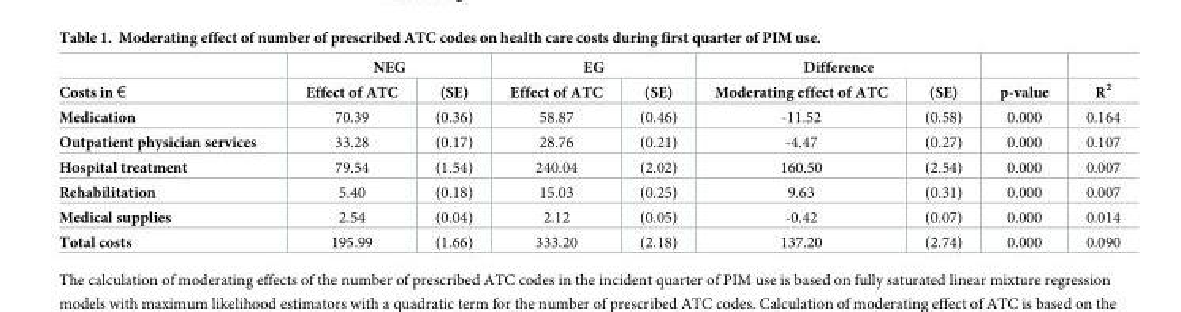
<table><thead><tr><td rowspan="2">Costs in €</td><td colspan="2">NEG</td><td colspan="2">EG</td><td colspan="2">Difference</td><td rowspan="2">p-value</td><td rowspan="2">R<sup>2</sup></td></tr><tr><td>Effect of ATC</td><td>(SE)</td><td>Effect of ATC</td><td>(SE)</td><td>Moderating effect of ATC</td><td>(SE)</td></tr></thead><tbody><tr><td>Medication</td><td>70.39</td><td>(0.36)</td><td>58.87</td><td>(0.46)</td><td>-11.52</td><td>(0.58)</td><td>0.000</td><td>0.164</td></tr><tr><td>Outpatient physician services</td><td>33.28</td><td>(0.17)</td><td>28.76</td><td>(0.21)</td><td>-4.47</td><td>(0.27)</td><td>0.000</td><td>0.107</td></tr><tr><td>Hospital treatment</td><td>79.54</td><td>(1.54)</td><td>240.04</td><td>(2.02)</td><td>160.50</td><td>(2.54)</td><td>0.000</td><td>0.007</td></tr><tr><td>Rehabilitation</td><td>5.40</td><td>(0.18)</td><td>15.03</td><td>(0.25)</td><td>9.63</td><td>(0.31)</td><td>0.000</td><td>0.007</td></tr><tr><td>Medical supplies</td><td>2.54</td><td>(0.04)</td><td>2.12</td><td>(0.05)</td><td>-0.42</td><td>(0.07)</td><td>0.000</td><td>0.014</td></tr><tr><td>Total costs</td><td>195.99</td><td>(1.66)</td><td>333.20</td><td>(2.18)</td><td>137.20</td><td>(2.74)</td><td>0.000</td><td>0.090</td></tr></tbody></table>